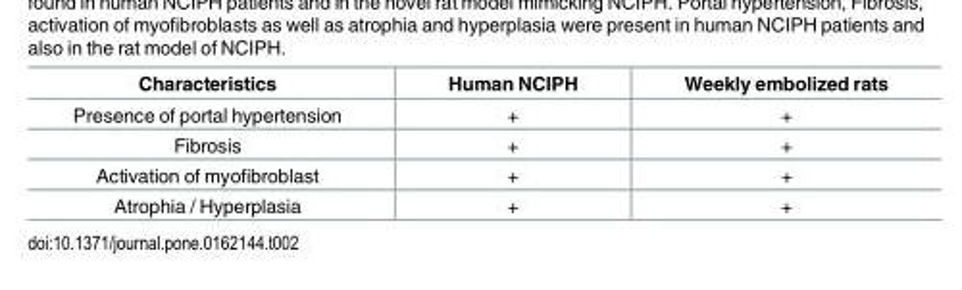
<table><thead><tr><td>Characteristics</td><td>Human NCIPH</td><td>Weekly embolized rats</td></tr></thead><tbody><tr><td>Presence of portal hypertension</td><td>+</td><td>+</td></tr><tr><td>Fibrosis</td><td>+</td><td>+</td></tr><tr><td>Activation of myofibroblast</td><td>+</td><td>+</td></tr><tr><td>Atrophia / Hyperplasia</td><td>+</td><td>+</td></tr></tbody></table>